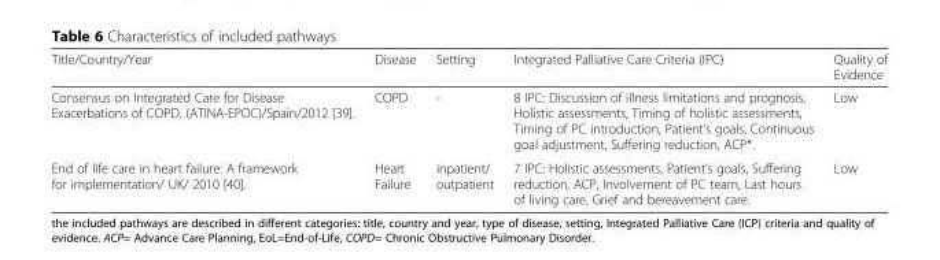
<table><thead><tr><td>Title/Country/Year</td><td>Disease</td><td>Setting</td><td>Integrated Palliative Care Criteria (IPC)</td><td>Quality of Evidence</td></tr></thead><tbody><tr><td>Consensus on Integrated Care for Disease Exacerbations of COPD. (ATINA-EPOC)/Spain/2012 [39].</td><td>COPD</td><td>-</td><td>8 IPC: Discussion of illness limitations and prognosis, Holistic assessments, Timing of holistic assessments, Timing of PC introduction, Patient’s goals, Continuous goal adjustment, Suffering reduction, ACP*.</td><td>Low</td></tr><tr><td>End of life care in heart failure: A framework for implementation/ UK/ 2010 [40].</td><td>Heart Failure</td><td>inpatient/ outpatient</td><td>7 IPC: Holistic assessments, Patient’s goals, Suffering reduction, ACP, Involvement of PC team, Last hours of living care, Grief and bereavement care.</td><td>Low</td></tr></tbody></table>